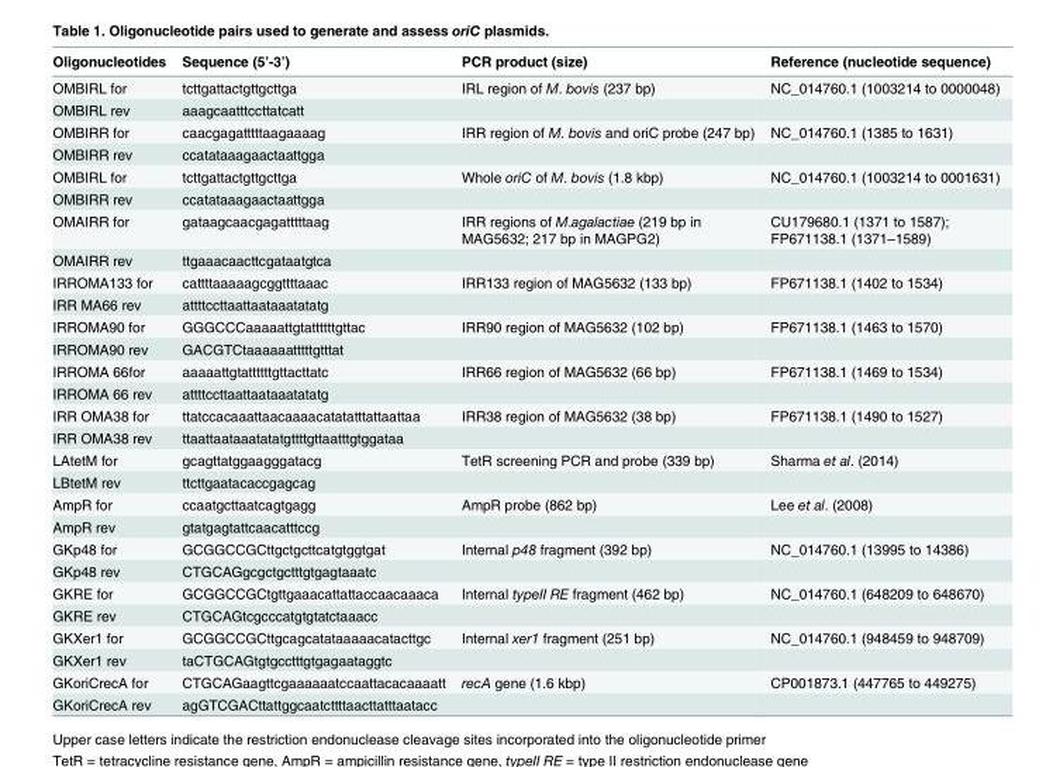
<table><thead><tr><td>Oligonucleotides</td><td>Sequence (5’-3’)</td><td>PCR product (size)</td><td>Reference (nucleotide sequence)</td></tr></thead><tbody><tr><td>OMBIRL for</td><td>tcttgattactgttgcttga</td><td>IRL region of M. bovis (237 bp)</td><td>NC_014760.1 (1003214 to 0000048)</td></tr><tr><td>OMBIRL rev</td><td>aaagcaatttccttatcatt</td><td></td><td></td></tr><tr><td>OMBIRR for</td><td>caacgagatttttaagaaaag</td><td>IRR region of M. bovis and oriC probe (247 bp)</td><td>NC_014760.1 (1385 to 1631)</td></tr><tr><td>OMBIRR rev</td><td>ccatataaagaactaattgga</td><td></td><td></td></tr><tr><td>OMBIRL for</td><td>tcttgattactgttgcttga</td><td>Whole oriC of M. bovis (1.8 kbp)</td><td>NC_014760.1 (1003214 to 0001631)</td></tr><tr><td>OMBIRR rev</td><td>ccatataaagaactaattgga</td><td></td><td></td></tr><tr><td>OMAIRR for</td><td>gataagcaacgagatttttaag</td><td>IRR regions of M.agalactiae (219 bp in MAG5632; 217 bp in MAGPG2)</td><td>CU179680.1 (1371 to 1587); FP671138.1 (1371–1589)</td></tr><tr><td>OMAIRR rev</td><td>ttgaaacaacttcgataatgtca</td><td></td><td></td></tr><tr><td>IRROMA133 for</td><td>cattttaaaaagcggttttaaac</td><td>IRR133 region of MAG5632 (133 bp)</td><td>FP671138.1 (1402 to 1534)</td></tr><tr><td>IRR MA66 rev</td><td>attttccttaattaataaatatatg</td><td></td><td></td></tr><tr><td>IRROMA90 for</td><td>GGGCCCaaaaattgtattttttgttac</td><td>IRR90 region of MAG5632 (102 bp)</td><td>FP671138.1 (1463 to 1570)</td></tr><tr><td>IRROMA90 rev</td><td>GACGTCtaaaaaatttttgtttat</td><td></td><td></td></tr><tr><td>IRROMA 66for</td><td>aaaaattgtattttttgttacttatc</td><td>IRR66 region of MAG5632 (66 bp)</td><td>FP671138.1 (1469 to 1534)</td></tr><tr><td>IRROMA 66 rev</td><td>attttccttaattaataaatatatg</td><td></td><td></td></tr><tr><td>IRR OMA38 for</td><td>ttatccacaaattaacaaaacatatatttattaattaa</td><td>IRR38 region of MAG5632 (38 bp)</td><td>FP671138.1 (1490 to 1527)</td></tr><tr><td>IRR OMA38 rev</td><td>ttaattaataaatatatgttttgttaatttgtggataa</td><td></td><td></td></tr><tr><td>LAtetM for</td><td>gcagttatggaagggatacg</td><td>TetR screening PCR and probe (339 bp)</td><td>Sharma et al. (2014)</td></tr><tr><td>LBtetM rev</td><td>ttcttgaatacaccgagcag</td><td></td><td></td></tr><tr><td>AmpR for</td><td>ccaatgcttaatcagtgagg</td><td>AmpR probe (862 bp)</td><td>Lee et al. (2008)</td></tr><tr><td>AmpR rev</td><td>gtatgagtattcaacatttccg</td><td></td><td></td></tr><tr><td>GKp48 for</td><td>GCGGCCGCttgctgcttcatgtggtgat</td><td>Internal p48 fragment (392 bp)</td><td>NC_014760.1 (13995 to 14386)</td></tr><tr><td>GKp48 rev</td><td>CTGCAGgcgctgctttgtgagtaaatc</td><td></td><td></td></tr><tr><td>GKRE for</td><td>GCGGCCGCtgttgaaacattattaccaacaaaca</td><td>Internal typeII RE fragment (462 bp)</td><td>NC_014760.1 (648209 to 648670)</td></tr><tr><td>GKRE rev</td><td>CTGCAGtcgcccatgtgtatctaaacc</td><td></td><td></td></tr><tr><td>GKXer1 for</td><td>GCGGCCGCttgcagcatataaaaacatacttgc</td><td>Internal xer1 fragment (251 bp)</td><td>NC_014760.1 (948459 to 948709)</td></tr><tr><td>GKXer1 rev</td><td>taCTGCAGtgtgcctttgtgagaataggtc</td><td></td><td></td></tr><tr><td>GKoriCrecA for</td><td>CTGCAGaagttcgaaaaaatccaattacacaaaatt</td><td>recA gene (1.6 kbp)</td><td>CP001873.1 (447765 to 449275)</td></tr><tr><td>GKoriCrecA rev</td><td>agGTCGACttattggcaatcttttaacttatttaatacc</td><td></td><td></td></tr></tbody></table>